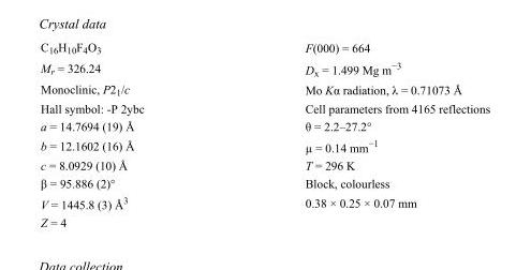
<table><tbody><tr><td>C<sub>16</sub>H<sub>10</sub>F<sub>4</sub>O<sub>3</sub></td><td>F(000) = 664</td></tr><tr><td>M<sub>r</sub> = 326.24</td><td>D<sub>x</sub> = 1.499 Mg m<sup>−3</sup></td></tr><tr><td>Monoclinic, P2<sub>1</sub>/c</td><td>Mo Kα radiation, λ = 0.71073 Å</td></tr><tr><td>Hall symbol: -P 2ybc</td><td>Cell parameters from 4165 reflections</td></tr><tr><td>a = 14.7694 (19) Å</td><td>θ = 2.2–27.2°</td></tr><tr><td>b = 12.1602 (16) Å</td><td>µ = 0.14 mm<sup>−1</sup></td></tr><tr><td>c = 8.0929 (10) Å</td><td>T = 296 K</td></tr><tr><td>β = 95.886 (2)°</td><td>Block, colourless</td></tr><tr><td>V = 1445.8 (3) Å<sup>3</sup></td><td>0.38 × 0.25 × 0.07 mm</td></tr><tr><td>Z = 4</td><td></td></tr></tbody></table>